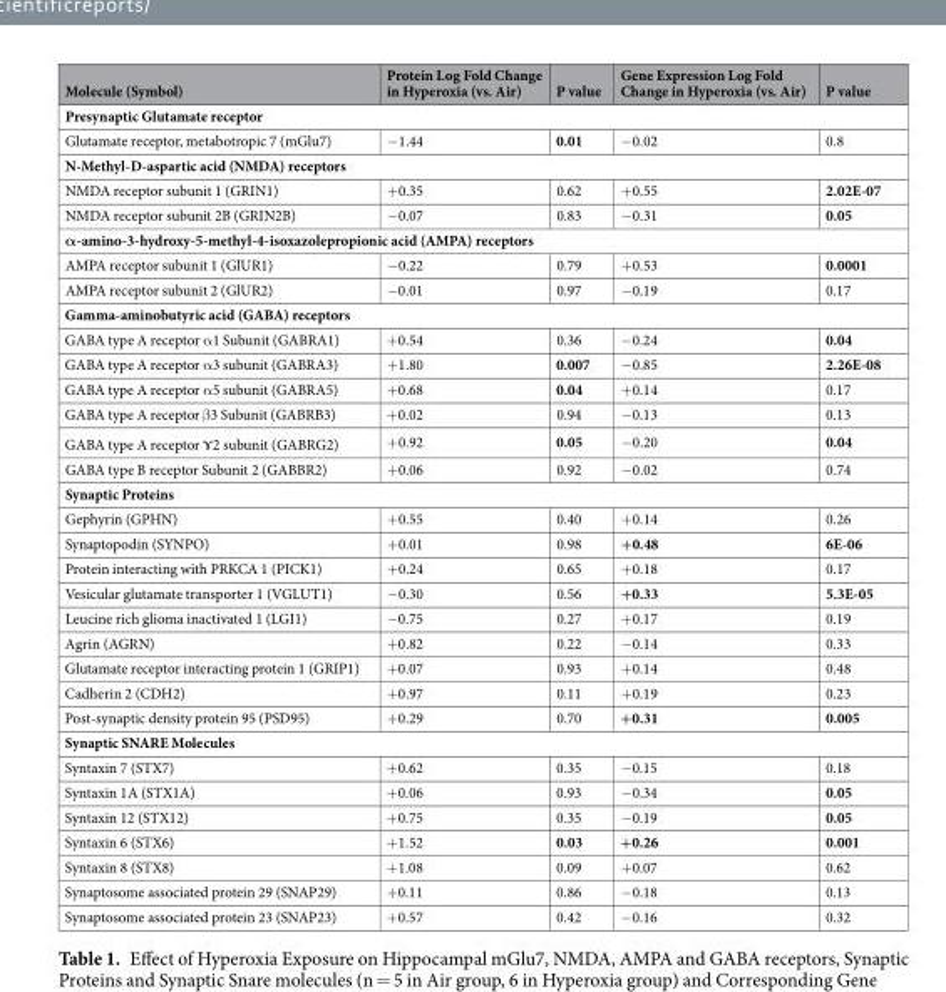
<table><thead><tr><td>Molecule (Symbol)</td><td>Protein Log Fold Change in Hyperoxia (vs. Air)</td><td>P value</td><td>Gene Expression Log Fold Change in Hyperoxia (vs. Air)</td><td>P value</td></tr></thead><tbody><tr><td colspan="5">Presynaptic Glutamate receptor</td></tr><tr><td>Glutamate receptor, metabotropic 7 (mGlu7)</td><td>−1.44</td><td>0.01</td><td>−0.02</td><td>0.8</td></tr><tr><td colspan="5">N-Methyl-D-aspartic acid (NMDA) receptors</td></tr><tr><td>NMDA receptor subunit 1 (GRIN1)</td><td>+0.35</td><td>0.62</td><td>+0.55</td><td>2.02E-07</td></tr><tr><td>NMDA receptor subunit 2B (GRIN2B)</td><td>−0.07</td><td>0.83</td><td>−0.31</td><td>0.05</td></tr><tr><td colspan="5">α-amino-3-hydroxy-5-methyl-4-isoxazolepropionic acid (AMPA) receptors</td></tr><tr><td>AMPA receptor subunit 1 (GlUR1)</td><td>−0.22</td><td>0.79</td><td>+0.53</td><td>0.0001</td></tr><tr><td>AMPA receptor subunit 2 (GlUR2)</td><td>−0.01</td><td>0.97</td><td>−0.19</td><td>0.17</td></tr><tr><td colspan="5">Gamma-aminobutyric acid (GABA) receptors</td></tr><tr><td>GABA type A receptor α1 Subunit (GABRA1)</td><td>+0.54</td><td>0.36</td><td>−0.24</td><td>0.04</td></tr><tr><td>GABA type A receptor α3 subunit (GABRA3)</td><td>+1.80</td><td>0.007</td><td>−0.85</td><td>2.26E-08</td></tr><tr><td>GABA type A receptor α5 subunit (GABRA5)</td><td>+0.68</td><td>0.04</td><td>+0.14</td><td>0.17</td></tr><tr><td>GABA type A receptor β3 Subunit (GABRB3)</td><td>+0.02</td><td>0.94</td><td>−0.13</td><td>0.13</td></tr><tr><td>GABA type A receptor ɤ2 subunit (GABRG2)</td><td>+0.92</td><td>0.05</td><td>−0.20</td><td>0.04</td></tr><tr><td>GABA type B receptor Subunit 2 (GABBR2)</td><td>+0.06</td><td>0.92</td><td>−0.02</td><td>0.74</td></tr><tr><td colspan="5">Synaptic Proteins</td></tr><tr><td>Gephyrin (GPHN)</td><td>+0.55</td><td>0.40</td><td>+0.14</td><td>0.26</td></tr><tr><td>Synaptopodin (SYNPO)</td><td>+0.01</td><td>0.98</td><td>+0.48</td><td>6E-06</td></tr><tr><td>Protein interacting with PRKCA 1 (PICK1)</td><td>+0.24</td><td>0.65</td><td>+0.18</td><td>0.17</td></tr><tr><td>Vesicular glutamate transporter 1 (VGLUT1)</td><td>−0.30</td><td>0.56</td><td>+0.33</td><td>5.3E-05</td></tr><tr><td>Leucine rich glioma inactivated 1 (LGI1)</td><td>−0.75</td><td>0.27</td><td>+0.17</td><td>0.19</td></tr><tr><td>Agrin (AGRN)</td><td>+0.82</td><td>0.22</td><td>−0.14</td><td>0.33</td></tr><tr><td>Glutamate receptor interacting protein 1 (GRIP1)</td><td>+0.07</td><td>0.93</td><td>+0.14</td><td>0.48</td></tr><tr><td>Cadherin 2 (CDH2)</td><td>+0.97</td><td>0.11</td><td>+0.19</td><td>0.23</td></tr><tr><td>Post-synaptic density protein 95 (PSD95)</td><td>+0.29</td><td>0.70</td><td>+0.31</td><td>0.005</td></tr><tr><td colspan="5">Synaptic SNARE Molecules</td></tr><tr><td>Syntaxin 7 (STX7)</td><td>+0.62</td><td>0.35</td><td>−0.15</td><td>0.18</td></tr><tr><td>Syntaxin 1A (STX1A)</td><td>+0.06</td><td>0.93</td><td>−0.34</td><td>0.05</td></tr><tr><td>Syntaxin 12 (STX12)</td><td>+0.75</td><td>0.35</td><td>−0.19</td><td>0.05</td></tr><tr><td>Syntaxin 6 (STX6)</td><td>+1.52</td><td>0.03</td><td>+0.26</td><td>0.001</td></tr><tr><td>Syntaxin 8 (STX8)</td><td>+1.08</td><td>0.09</td><td>+0.07</td><td>0.62</td></tr><tr><td>Synaptosome associated protein 29 (SNAP29)</td><td>+0.11</td><td>0.86</td><td>−0.18</td><td>0.13</td></tr><tr><td>Synaptosome associated protein 23 (SNAP23)</td><td>+0.57</td><td>0.42</td><td>−0.16</td><td>0.32</td></tr></tbody></table>